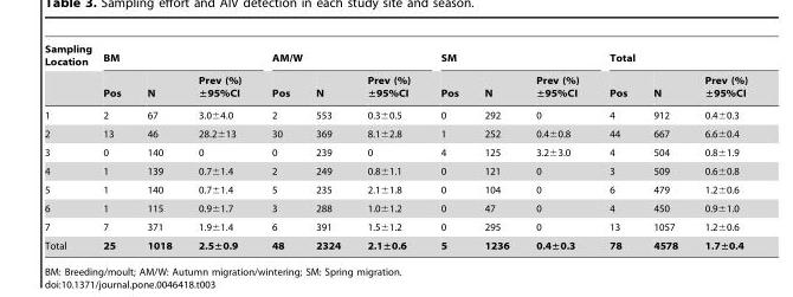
<table><thead><tr><td rowspan="2">Sampling Location</td><td colspan="3">BM</td><td colspan="3">AM/W</td><td colspan="3">SM</td><td colspan="3">Total</td></tr><tr><td>Pos</td><td>N</td><td>Prev (%) ±95%CI</td><td>Pos</td><td>N</td><td>Prev (%) ±95%CI</td><td>Pos</td><td>N</td><td>Prev (%) ±95%CI</td><td>Pos</td><td>N</td><td>Prev (%) ±95%CI</td></tr></thead><tbody><tr><td>1</td><td>2</td><td>67</td><td>3.0±4.0</td><td>2</td><td>553</td><td>0.3±0.5</td><td>0</td><td>292</td><td>0</td><td>4</td><td>912</td><td>0.4±0.3</td></tr><tr><td>2</td><td>13</td><td>46</td><td>28.2±13</td><td>30</td><td>369</td><td>8.1±2.8</td><td>1</td><td>252</td><td>0.4±0.8</td><td>44</td><td>667</td><td>6.6±0.4</td></tr><tr><td>3</td><td>0</td><td>140</td><td>0</td><td>0</td><td>239</td><td>0</td><td>4</td><td>125</td><td>3.2±3.0</td><td>4</td><td>504</td><td>0.8±1.9</td></tr><tr><td>4</td><td>1</td><td>139</td><td>0.7±1.4</td><td>2</td><td>249</td><td>0.8±1.1</td><td>0</td><td>121</td><td>0</td><td>3</td><td>509</td><td>0.6±0.8</td></tr><tr><td>5</td><td>1</td><td>140</td><td>0.7±1.4</td><td>5</td><td>235</td><td>2.1±1.8</td><td>0</td><td>104</td><td>0</td><td>6</td><td>479</td><td>1.2±0.6</td></tr><tr><td>6</td><td>1</td><td>115</td><td>0.9±1.7</td><td>3</td><td>288</td><td>1.0±1.2</td><td>0</td><td>47</td><td>0</td><td>4</td><td>450</td><td>0.9±1.0</td></tr><tr><td>7</td><td>7</td><td>371</td><td>1.9±1.4</td><td>6</td><td>391</td><td>1.5±1.2</td><td>0</td><td>295</td><td>0</td><td>13</td><td>1057</td><td>1.2±0.6</td></tr><tr><td>Total</td><td>25</td><td>1018</td><td>2.5±0.9</td><td>48</td><td>2324</td><td>2.1±0.6</td><td>5</td><td>1236</td><td>0.4±0.3</td><td>78</td><td>4578</td><td>1.7±0.4</td></tr></tbody></table>